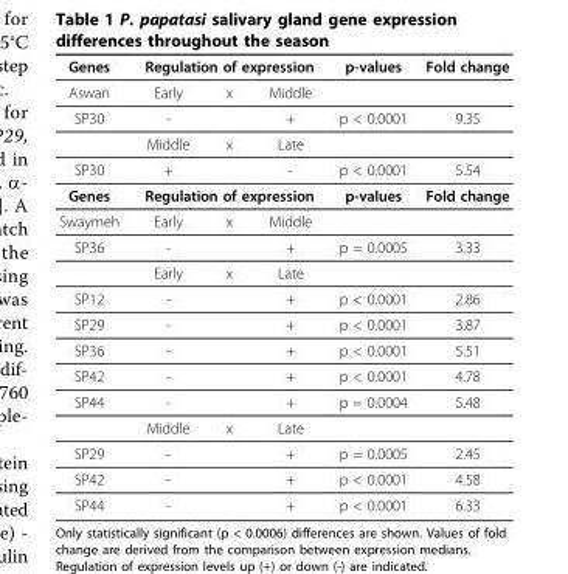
<table><thead><tr><td rowspan="2">Genes Aswan</td><td colspan="3">Regulation of expression</td><td rowspan="2">p-values</td><td rowspan="2">Fold change</td></tr><tr><td>Early</td><td>x</td><td>Middle</td></tr></thead><tbody><tr><td rowspan="2">SP30</td><td>-</td><td></td><td>+</td><td>p &lt; 0.0001</td><td>9.35</td></tr><tr><td>Middle</td><td>x</td><td>Late</td><td></td><td></td></tr><tr><td>SP30</td><td>+</td><td></td><td>-</td><td>p &lt; 0.0001</td><td>5.54</td></tr><tr><td>Genes</td><td colspan="3">Regulation of expression</td><td>p-values</td><td>Fold change</td></tr><tr><td>Swaymeh</td><td>Early</td><td>x</td><td>Middle</td><td></td><td></td></tr><tr><td rowspan="2">SP36</td><td>-</td><td></td><td>+</td><td>p = 0.0005</td><td>3.33</td></tr><tr><td>Early</td><td>x</td><td>Late</td><td></td><td></td></tr><tr><td>SP12</td><td>-</td><td></td><td>+</td><td>p &lt; 0.0001</td><td>2.86</td></tr><tr><td>SP29</td><td>-</td><td></td><td>+</td><td>p &lt; 0.0001</td><td>3.87</td></tr><tr><td>SP36</td><td>-</td><td></td><td>+</td><td>p &lt; 0.0001</td><td>5.51</td></tr><tr><td>SP42</td><td>-</td><td></td><td>+</td><td>p &lt; 0.0001</td><td>4.78</td></tr><tr><td rowspan="2">SP44</td><td>-</td><td></td><td>+</td><td>p = 0.0004</td><td>5.48</td></tr><tr><td>Middle</td><td>x</td><td>Late</td><td></td><td></td></tr><tr><td>SP29</td><td>-</td><td></td><td>+</td><td>p = 0.0005</td><td>2.45</td></tr><tr><td>SP42</td><td>-</td><td></td><td>+</td><td>p &lt; 0.0001</td><td>4.58</td></tr><tr><td>SP44</td><td>-</td><td></td><td>+</td><td>p &lt; 0.0001</td><td>6.33</td></tr></tbody></table>